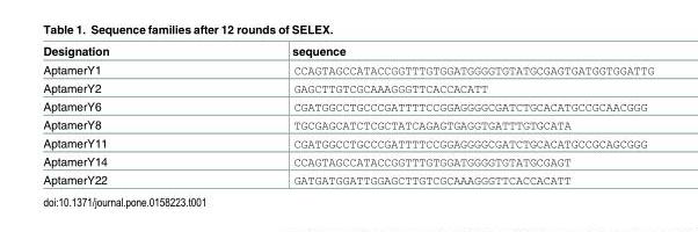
<table><thead><tr><td>Designation</td><td>sequence</td></tr></thead><tbody><tr><td>AptamerY1</td><td>CCAGTAGCCATACCGGTTTGTGGATGGGGTGTATGCGAGTGATGGTGGATTG</td></tr><tr><td>AptamerY2</td><td>GAGCTTGTCGCAAAGGGTTCACCACATT</td></tr><tr><td>AptamerY6</td><td>CGATGGCCTGCCCGATTTTCCGGAGGGGCGATCTGCACATGCCGCAACGGG</td></tr><tr><td>AptamerY8</td><td>TGCGAGCATCTCGCTATCAGAGTGAGGTGATTTGTGCATA</td></tr><tr><td>AptamerY11</td><td>CGATGGCCTGCCCGATTTTCCGGAGGGGCGATCTGCACATGCCGCAGCGGG</td></tr><tr><td>AptamerY14</td><td>CCAGTAGCCATACCGGTTTGTGGATGGGGTGTATGCGAGT</td></tr><tr><td>AptamerY22</td><td>GATGATGGATTGGAGCTTGTCGCAAAGGGTTCACCACATT</td></tr></tbody></table>